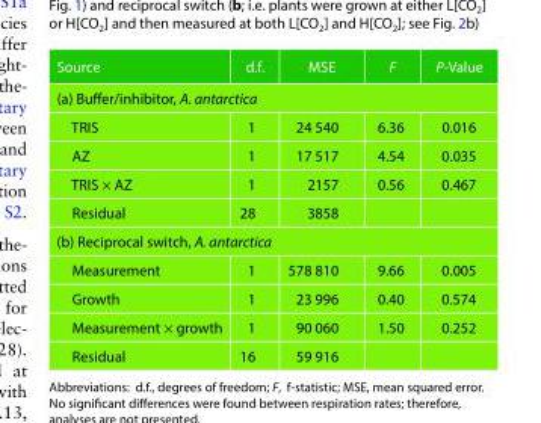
<table><thead><tr><td>Source</td><td>d.f.</td><td>MSE</td><td>F</td><td>P-Value</td></tr></thead><tbody><tr><td colspan="5">(a) Buffer/inhibitor, A. antarctica</td></tr><tr><td>TRIS</td><td>1</td><td>24 540</td><td>6.36</td><td>0.016</td></tr><tr><td>AZ</td><td>1</td><td>17 517</td><td>4.54</td><td>0.035</td></tr><tr><td>TRIS × AZ</td><td>1</td><td>2157</td><td>0.56</td><td>0.467</td></tr><tr><td>Residual</td><td>28</td><td>3858</td><td></td><td></td></tr><tr><td colspan="5">(b) Reciprocal switch, A. antarctica</td></tr><tr><td>Measurement</td><td>1</td><td>578 810</td><td>9.66</td><td>0.005</td></tr><tr><td>Growth</td><td>1</td><td>23 996</td><td>0.40</td><td>0.574</td></tr><tr><td>Measurement × growth</td><td>1</td><td>90 060</td><td>1.50</td><td>0.252</td></tr><tr><td>Residual</td><td>16</td><td>59 916</td><td></td><td></td></tr></tbody></table>